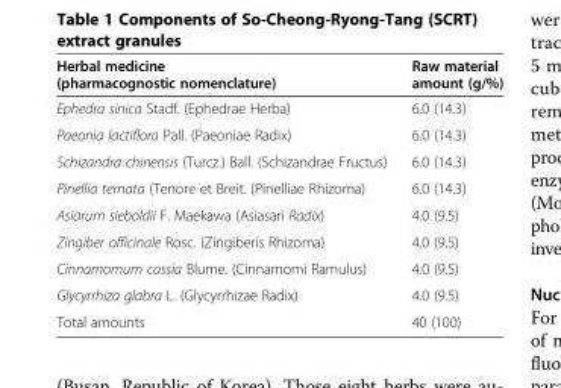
<table><thead><tr><td>Herbal medicine (pharmacognostic nomenclature)</td><td>Raw material amount (g/%)</td></tr></thead><tbody><tr><td>Ephedra sinica Stadf. (Ephedrae Herba)</td><td>6.0 (14.3)</td></tr><tr><td>Paeonia lactiflora Pall. (Paeoniae Radix)</td><td>6.0 (14.3)</td></tr><tr><td>Schizandra chinensis (Turcz.) Ball. (Schizandrae Fructus)</td><td>6.0 (14.3)</td></tr><tr><td>Pinellia ternata (Tenore et Breit. (Pinelliae Rhizoma)</td><td>6.0 (14.3)</td></tr><tr><td>Asiarum sieboldii F. Maekawa (Asiasari Radix)</td><td>4.0 (9.5)</td></tr><tr><td>Zingiber officinale Rosc. (Zingiberis Rhizoma)</td><td>4.0 (9.5)</td></tr><tr><td>Cinnamomum cassia Blume. (Cinnamomi Ramulus)</td><td>4.0 (9.5)</td></tr><tr><td>Glycyrrhiza glabra L. (Glycyrrhizae Radix)</td><td>4.0 (9.5)</td></tr><tr><td>Total amounts</td><td>40 (100)</td></tr></tbody></table>